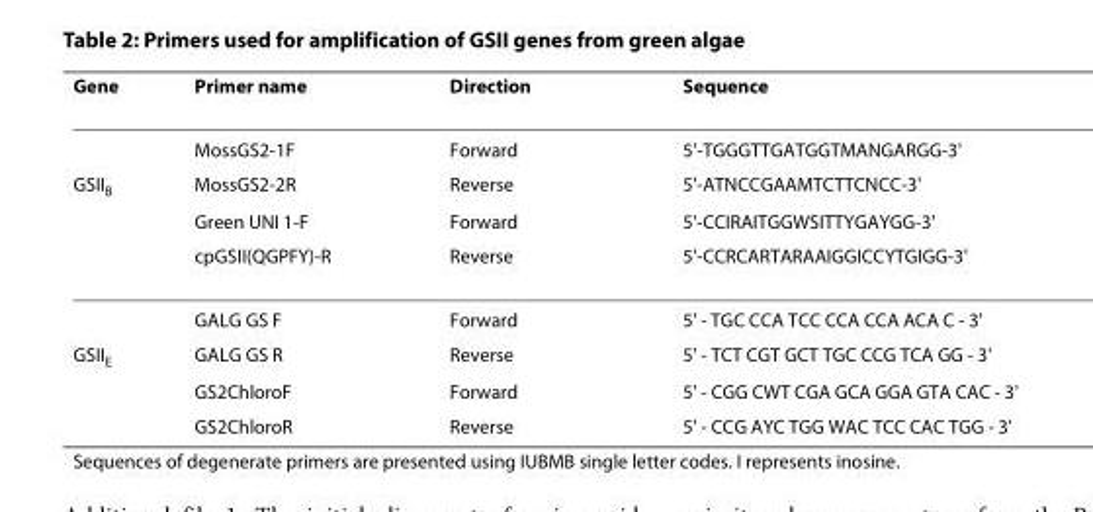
<table><thead><tr><td>Gene</td><td>Primer name</td><td>Direction</td><td>Sequence</td></tr></thead><tbody><tr><td></td><td>MossGS2-1F</td><td>Forward</td><td>5&#x27;-TGGGTTGATGGTMANGARGG-3&#x27;</td></tr><tr><td rowspan="4">GSII<sub>B</sub></td><td>MossGS2-2R</td><td>Reverse</td><td>5&#x27;-ATNCCGAAMTCTTCNCC-3&#x27;</td></tr><tr><td>Green UNI 1-F</td><td>Forward</td><td>5&#x27;-CCIRAITGGWSITTYGAYGG-3&#x27;</td></tr><tr><td>cpGSII(QGPFY)-R</td><td>Reverse</td><td>5&#x27;-CCRCARTARAAIGGICCYTGIGG-3&#x27;</td></tr><tr><td>GALG GS F</td><td>Forward</td><td>5&#x27; - TGC CCA TCC CCA CCA ACA C - 3&#x27;</td></tr><tr><td rowspan="3">GSII<sub>E</sub></td><td>GALG GS R</td><td>Reverse</td><td>5&#x27; - TCT CGT GCT TGC CCG TCA GG - 3&#x27;</td></tr><tr><td>GS2ChloroF</td><td>Forward</td><td>5&#x27; - CGG CWT CGA GCA GGA GTA CAC - 3&#x27;</td></tr><tr><td>GS2ChloroR</td><td>Reverse</td><td>5&#x27; - CCG AYC TGG WAC TCC CAC TGG - 3&#x27;</td></tr></tbody></table>